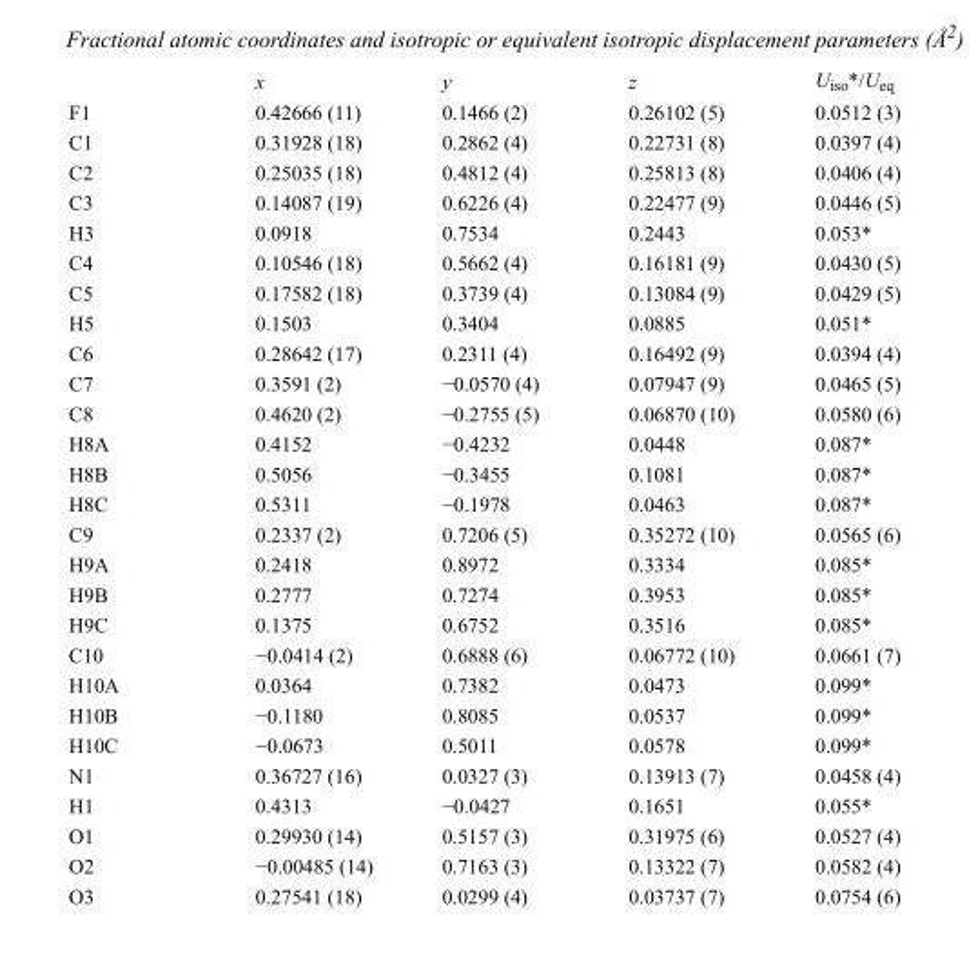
<table><thead><tr><td></td><td>x</td><td>y</td><td>z</td><td>U<sub>iso</sub>*/U<sub>eq</sub></td></tr></thead><tbody><tr><td>F1</td><td>0.42666 (11)</td><td>0.1466 (2)</td><td>0.26102 (5)</td><td>0.0512 (3)</td></tr><tr><td>C1</td><td>0.31928 (18)</td><td>0.2862 (4)</td><td>0.22731 (8)</td><td>0.0397 (4)</td></tr><tr><td>C2</td><td>0.25035 (18)</td><td>0.4812 (4)</td><td>0.25813 (8)</td><td>0.0406 (4)</td></tr><tr><td>C3</td><td>0.14087 (19)</td><td>0.6226 (4)</td><td>0.22477 (9)</td><td>0.0446 (5)</td></tr><tr><td>H3</td><td>0.0918</td><td>0.7534</td><td>0.2443</td><td>0.053*</td></tr><tr><td>C4</td><td>0.10546 (18)</td><td>0.5662 (4)</td><td>0.16181 (9)</td><td>0.0430 (5)</td></tr><tr><td>C5</td><td>0.17582 (18)</td><td>0.3739 (4)</td><td>0.13084 (9)</td><td>0.0429 (5)</td></tr><tr><td>H5</td><td>0.1503</td><td>0.3404</td><td>0.0885</td><td>0.051*</td></tr><tr><td>C6</td><td>0.28642 (17)</td><td>0.2311 (4)</td><td>0.16492 (9)</td><td>0.0394 (4)</td></tr><tr><td>C7</td><td>0.3591 (2)</td><td>−0.0570 (4)</td><td>0.07947 (9)</td><td>0.0465 (5)</td></tr><tr><td>C8</td><td>0.4620 (2)</td><td>−0.2755 (5)</td><td>0.06870 (10)</td><td>0.0580 (6)</td></tr><tr><td>H8A</td><td>0.4152</td><td>−0.4232</td><td>0.0448</td><td>0.087*</td></tr><tr><td>H8B</td><td>0.5056</td><td>−0.3455</td><td>0.1081</td><td>0.087*</td></tr><tr><td>H8C</td><td>0.5311</td><td>−0.1978</td><td>0.0463</td><td>0.087*</td></tr><tr><td>C9</td><td>0.2337 (2)</td><td>0.7206 (5)</td><td>0.35272 (10)</td><td>0.0565 (6)</td></tr><tr><td>H9A</td><td>0.2418</td><td>0.8972</td><td>0.3334</td><td>0.085*</td></tr><tr><td>H9B</td><td>0.2777</td><td>0.7274</td><td>0.3953</td><td>0.085*</td></tr><tr><td>H9C</td><td>0.1375</td><td>0.6752</td><td>0.3516</td><td>0.085*</td></tr><tr><td>C10</td><td>−0.0414 (2)</td><td>0.6888 (6)</td><td>0.06772 (10)</td><td>0.0661 (7)</td></tr><tr><td>H10A</td><td>0.0364</td><td>0.7382</td><td>0.0473</td><td>0.099*</td></tr><tr><td>H10B</td><td>−0.1180</td><td>0.8085</td><td>0.0537</td><td>0.099*</td></tr><tr><td>H10C</td><td>−0.0673</td><td>0.5011</td><td>0.0578</td><td>0.099*</td></tr><tr><td>N1</td><td>0.36727 (16)</td><td>0.0327 (3)</td><td>0.13913 (7)</td><td>0.0458 (4)</td></tr><tr><td>H1</td><td>0.4313</td><td>−0.0427</td><td>0.1651</td><td>0.055*</td></tr><tr><td>O1</td><td>0.29930 (14)</td><td>0.5157 (3)</td><td>0.31975 (6)</td><td>0.0527 (4)</td></tr><tr><td>O2</td><td>−0.00485 (14)</td><td>0.7163 (3)</td><td>0.13322 (7)</td><td>0.0582 (4)</td></tr><tr><td>O3</td><td>0.27541 (18)</td><td>0.0299 (4)</td><td>0.03737 (7)</td><td>0.0754 (6)</td></tr></tbody></table>